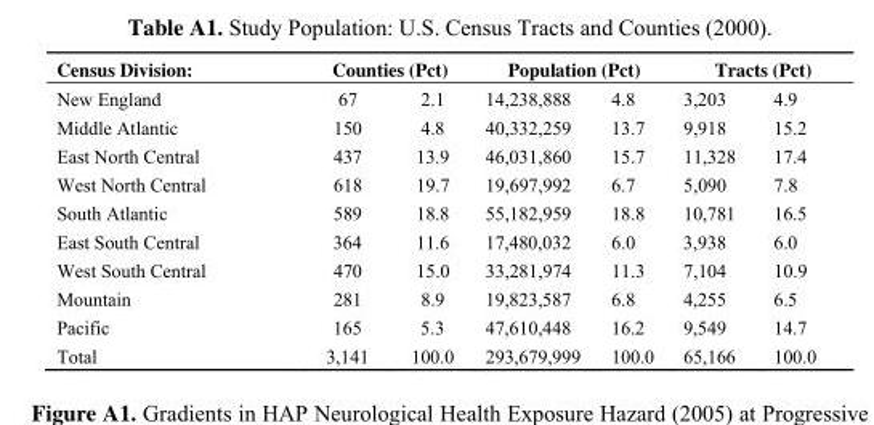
<table><thead><tr><td rowspan="2">Census Division: New England</td><td colspan="2">Counties (Pct)</td><td colspan="2">Population (Pct)</td><td colspan="2">Tracts (Pct)</td></tr><tr><td>67</td><td>2.1</td><td>14,238,888</td><td>4.8</td><td>3,203</td><td>4.9</td></tr></thead><tbody><tr><td>Middle Atlantic</td><td>150</td><td>4.8</td><td>40,332,259</td><td>13.7</td><td>9,918</td><td>15.2</td></tr><tr><td>East North Central</td><td>437</td><td>13.9</td><td>46,031,860</td><td>15.7</td><td>11,328</td><td>17.4</td></tr><tr><td>West North Central</td><td>618</td><td>19.7</td><td>19,697,992</td><td>6.7</td><td>5,090</td><td>7.8</td></tr><tr><td>South Atlantic</td><td>589</td><td>18.8</td><td>55,182,959</td><td>18.8</td><td>10,781</td><td>16.5</td></tr><tr><td>East South Central</td><td>364</td><td>11.6</td><td>17,480,032</td><td>6.0</td><td>3,938</td><td>6.0</td></tr><tr><td>West South Central</td><td>470</td><td>15.0</td><td>33,281,974</td><td>11.3</td><td>7,104</td><td>10.9</td></tr><tr><td>Mountain</td><td>281</td><td>8.9</td><td>19,823,587</td><td>6.8</td><td>4,255</td><td>6.5</td></tr><tr><td>Pacific</td><td>165</td><td>5.3</td><td>47,610,448</td><td>16.2</td><td>9,549</td><td>14.7</td></tr><tr><td>Total</td><td>3,141</td><td>100.0</td><td>293,679,999</td><td>100.0</td><td>65,166</td><td>100.0</td></tr></tbody></table>